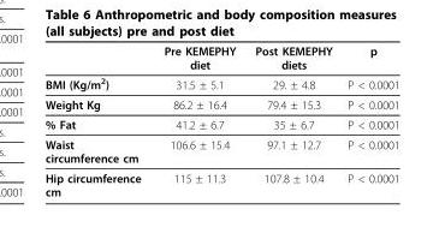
<table><thead><tr><td></td><td>Pre KEMEPHY diet</td><td>Post KEMEPHY diets</td><td>p</td></tr></thead><tbody><tr><td>BMI (Kg/m<sup>2</sup>)</td><td>31.5 ± 5.1</td><td>29. ± 4.8</td><td>P &lt; 0.0001</td></tr><tr><td>Weight Kg</td><td>86.2 ± 16.4</td><td>79.4 ± 15.3</td><td>P &lt; 0.0001</td></tr><tr><td>% Fat</td><td>41.2 ± 6.7</td><td>35 ± 6.7</td><td>P &lt; 0.0001</td></tr><tr><td>Waist circumference cm</td><td>106.6 ± 15.4</td><td>97.1 ± 12.7</td><td>P &lt; 0.0001</td></tr><tr><td>Hip circumference cm</td><td>115 ± 11.3</td><td>107.8 ± 10.4</td><td>P &lt; 0.0001</td></tr></tbody></table>